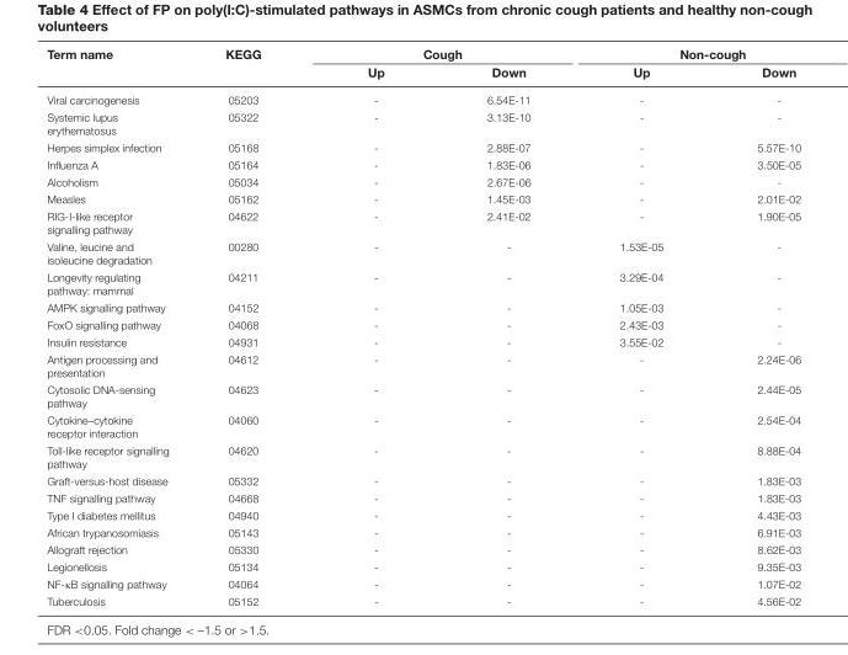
<table><thead><tr><td rowspan="2">Term name</td><td rowspan="2">KEGG</td><td colspan="2">Cough</td><td colspan="2">Non-cough</td></tr><tr><td>Up</td><td>Down</td><td>Up</td><td>Down</td></tr></thead><tbody><tr><td>Viral carcinogenesis</td><td>05203</td><td>-</td><td>6.54E-11</td><td>-</td><td>-</td></tr><tr><td>Systemic lupus erythematosus</td><td>05322</td><td>-</td><td>3.13E-10</td><td>-</td><td>-</td></tr><tr><td>Herpes simplex infection</td><td>05168</td><td>-</td><td>2.88E-07</td><td>-</td><td>5.57E-10</td></tr><tr><td>Influenza A</td><td>05164</td><td>-</td><td>1.83E-06</td><td>-</td><td>3.50E-05</td></tr><tr><td>Alcoholism</td><td>05034</td><td>-</td><td>2.67E-06</td><td>-</td><td>-</td></tr><tr><td>Measles</td><td>05162</td><td>-</td><td>1.45E-03</td><td>-</td><td>2.01E-02</td></tr><tr><td>RIG-I-like receptor signalling pathway</td><td>04622</td><td>-</td><td>2.41E-02</td><td>-</td><td>1.90E-05</td></tr><tr><td>Valine, leucine and isoleucine degradation</td><td>00280</td><td>-</td><td>-</td><td>1.53E-05</td><td>-</td></tr><tr><td>Longevity regulating pathway: mammal</td><td>04211</td><td>-</td><td>-</td><td>3.29E-04</td><td>-</td></tr><tr><td>AMPK signalling pathway</td><td>04152</td><td>-</td><td>-</td><td>1.05E-03</td><td>-</td></tr><tr><td>FoxO signalling pathway</td><td>04068</td><td>-</td><td>-</td><td>2.43E-03</td><td>-</td></tr><tr><td>Insulin resistance</td><td>04931</td><td>-</td><td>-</td><td>3.55E-02</td><td>-</td></tr><tr><td>Antigen processing and presentation</td><td>04612</td><td>-</td><td>-</td><td>-</td><td>2.24E-06</td></tr><tr><td>Cytosolic DNA-sensing pathway</td><td>04623</td><td>-</td><td>-</td><td>-</td><td>2.44E-05</td></tr><tr><td>Cytokine–cytokine receptor interaction</td><td>04060</td><td>-</td><td>-</td><td>-</td><td>2.54E-04</td></tr><tr><td>Toll-like receptor signalling pathway</td><td>04620</td><td>-</td><td>-</td><td>-</td><td>8.88E-04</td></tr><tr><td>Graft-versus-host disease</td><td>05332</td><td>-</td><td>-</td><td>-</td><td>1.83E-03</td></tr><tr><td>TNF signalling pathway</td><td>04668</td><td>-</td><td>-</td><td>-</td><td>1.83E-03</td></tr><tr><td>Type I diabetes mellitus</td><td>04940</td><td>-</td><td>-</td><td>-</td><td>4.43E-03</td></tr><tr><td>African trypanosomiasis</td><td>05143</td><td>-</td><td>-</td><td>-</td><td>6.91E-03</td></tr><tr><td>Allograft rejection</td><td>05330</td><td>-</td><td>-</td><td>-</td><td>8.62E-03</td></tr><tr><td>Legionellosis</td><td>05134</td><td>-</td><td>-</td><td>-</td><td>9.35E-03</td></tr><tr><td>NF-κB signalling pathway</td><td>04064</td><td>-</td><td>-</td><td>-</td><td>1.07E-02</td></tr><tr><td>Tuberculosis</td><td>05152</td><td>-</td><td>-</td><td>-</td><td>4.56E-02</td></tr></tbody></table>